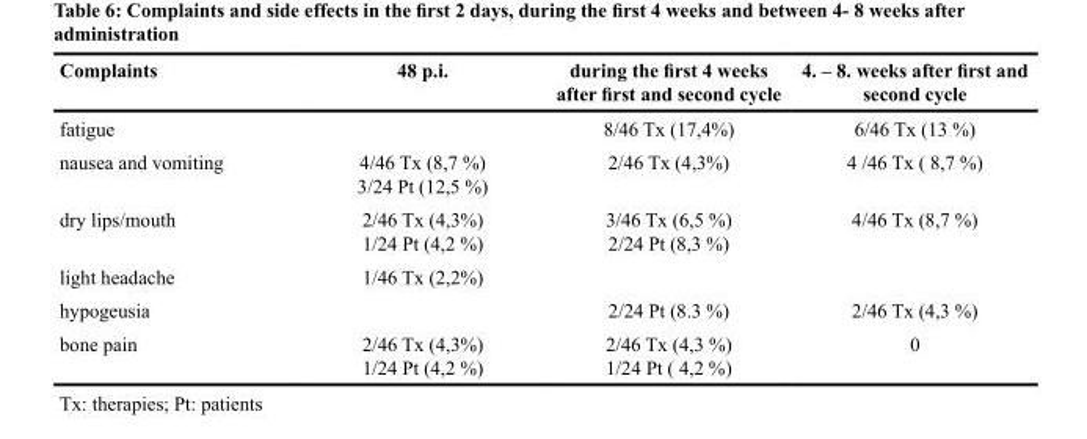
<table><thead><tr><td>Complaints</td><td>48 p.i.</td><td>during the first 4 weeks after first and second cycle</td><td>4. – 8. weeks after first and second cycle</td></tr></thead><tbody><tr><td>fatigue</td><td></td><td>8/46 Tx (17,4%)</td><td>6/46 Tx (13 %)</td></tr><tr><td>nausea and vomiting</td><td>4/46 Tx (8,7 %) 3/24 Pt (12,5 %)</td><td>2/46 Tx (4,3%)</td><td>4 /46 Tx ( 8,7 %)</td></tr><tr><td>dry lips/mouth</td><td>2/46 Tx (4,3%) 1/24 Pt (4,2 %)</td><td>3/46 Tx (6,5 %) 2/24 Pt (8,3 %)</td><td>4/46 Tx (8,7 %)</td></tr><tr><td>light headache</td><td>1/46 Tx (2,2%)</td><td></td><td></td></tr><tr><td>hypogeusia</td><td></td><td>2/24 Pt (8.3 %)</td><td>2/46 Tx (4,3 %)</td></tr><tr><td>bone pain</td><td>2/46 Tx (4,3%) 1/24 Pt (4,2 %)</td><td>2/46 Tx (4,3 %) 1/24 Pt ( 4,2 %)</td><td>0</td></tr></tbody></table>